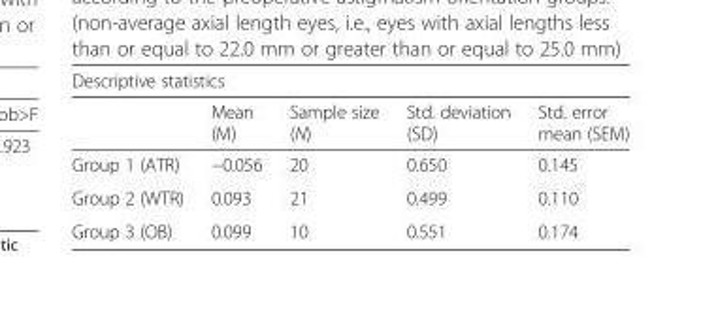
<table><thead><tr><td colspan="5">Descriptive statistics</td></tr><tr><td></td><td>Mean (M)</td><td>Sample size (N)</td><td>Std. deviation (SD)</td><td>Std. error mean (SEM)</td></tr></thead><tbody><tr><td>Group 1 (ATR)</td><td>−0.056</td><td>20</td><td>0.650</td><td>0.145</td></tr><tr><td>Group 2 (WTR)</td><td>0.093</td><td>21</td><td>0.499</td><td>0.110</td></tr><tr><td>Group 3 (OB)</td><td>0.099</td><td>10</td><td>0.551</td><td>0.174</td></tr></tbody></table>